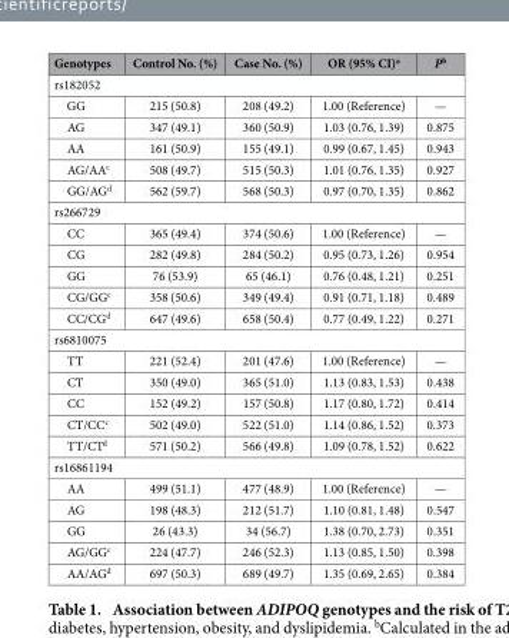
<table><thead><tr><td>Genotypes</td><td>Control No. (%)</td><td>Case No. (%)</td><td>OR (95% CI)<sup>a</sup></td><td>P<sup>b</sup></td></tr></thead><tbody><tr><td colspan="5">rs182052</td></tr><tr><td>GG</td><td>215 (50.8)</td><td>208 (49.2)</td><td>1.00 (Reference)</td><td>—</td></tr><tr><td>AG</td><td>347 (49.1)</td><td>360 (50.9)</td><td>1.03 (0.76, 1.39)</td><td>0.875</td></tr><tr><td>AA</td><td>161 (50.9)</td><td>155 (49.1)</td><td>0.99 (0.67, 1.45)</td><td>0.943</td></tr><tr><td>AG/AA<sup>c</sup></td><td>508 (49.7)</td><td>515 (50.3)</td><td>1.01 (0.76, 1.35)</td><td>0.927</td></tr><tr><td>GG/AG<sup>d</sup></td><td>562 (59.7)</td><td>568 (50.3)</td><td>0.97 (0.70, 1.35)</td><td>0.862</td></tr><tr><td colspan="5">rs266729</td></tr><tr><td>CC</td><td>365 (49.4)</td><td>374 (50.6)</td><td>1.00 (Reference)</td><td>—</td></tr><tr><td>CG</td><td>282 (49.8)</td><td>284 (50.2)</td><td>0.95 (0.73, 1.26)</td><td>0.954</td></tr><tr><td>GG</td><td>76 (53.9)</td><td>65 (46.1)</td><td>0.76 (0.48, 1.21)</td><td>0.251</td></tr><tr><td>CG/GG<sup>c</sup></td><td>358 (50.6)</td><td>349 (49.4)</td><td>0.91 (0.71, 1.18)</td><td>0.489</td></tr><tr><td>CC/CG<sup>d</sup></td><td>647 (49.6)</td><td>658 (50.4)</td><td>0.77 (0.49, 1.22)</td><td>0.271</td></tr><tr><td colspan="5">rs6810075</td></tr><tr><td>TT</td><td>221 (52.4)</td><td>201 (47.6)</td><td>1.00 (Reference)</td><td>—</td></tr><tr><td>CT</td><td>350 (49.0)</td><td>365 (51.0)</td><td>1.13 (0.83, 1.53)</td><td>0.438</td></tr><tr><td>CC</td><td>152 (49.2)</td><td>157 (50.8)</td><td>1.17 (0.80, 1.72)</td><td>0.414</td></tr><tr><td>CT/CC<sup>c</sup></td><td>502 (49.0)</td><td>522 (51.0)</td><td>1.14 (0.86, 1.52)</td><td>0.373</td></tr><tr><td>TT/CT<sup>d</sup></td><td>571 (50.2)</td><td>566 (49.8)</td><td>1.09 (0.78, 1.52)</td><td>0.622</td></tr><tr><td colspan="5">rs16861194</td></tr><tr><td>AA</td><td>499 (51.1)</td><td>477 (48.9)</td><td>1.00 (Reference)</td><td>—</td></tr><tr><td>AG</td><td>198 (48.3)</td><td>212 (51.7)</td><td>1.10 (0.81, 1.48)</td><td>0.547</td></tr><tr><td>GG</td><td>26 (43.3)</td><td>34 (56.7)</td><td>1.38 (0.70, 2.73)</td><td>0.351</td></tr><tr><td>AG/GG<sup>c</sup></td><td>224 (47.7)</td><td>246 (52.3)</td><td>1.13 (0.85, 1.50)</td><td>0.398</td></tr><tr><td>AA/AG<sup>d</sup></td><td>697 (50.3)</td><td>689 (49.7)</td><td>1.35 (0.69, 2.65)</td><td>0.384</td></tr></tbody></table>